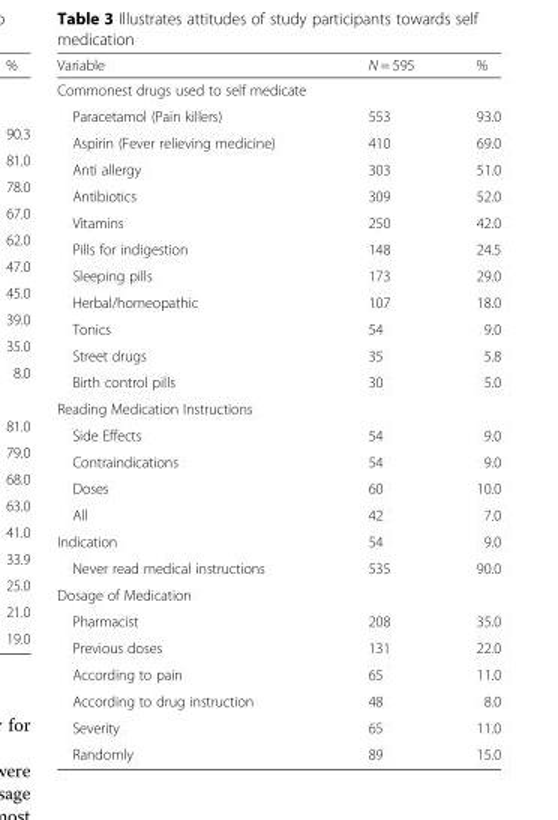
<table><thead><tr><td>Variable</td><td>N = 595</td><td>%</td></tr></thead><tbody><tr><td colspan="3">Commonest drugs used to self medicate</td></tr><tr><td>Paracetamol (Pain killers)</td><td>553</td><td>93.0</td></tr><tr><td>Aspirin (Fever relieving medicine)</td><td>410</td><td>69.0</td></tr><tr><td>Anti allergy</td><td>303</td><td>51.0</td></tr><tr><td>Antibiotics</td><td>309</td><td>52.0</td></tr><tr><td>Vitamins</td><td>250</td><td>42.0</td></tr><tr><td>Pills for indigestion</td><td>148</td><td>24.5</td></tr><tr><td>Sleeping pills</td><td>173</td><td>29.0</td></tr><tr><td>Herbal/homeopathic</td><td>107</td><td>18.0</td></tr><tr><td>Tonics</td><td>54</td><td>9.0</td></tr><tr><td>Street drugs</td><td>35</td><td>5.8</td></tr><tr><td>Birth control pills</td><td>30</td><td>5.0</td></tr><tr><td colspan="3">Reading Medication Instructions</td></tr><tr><td>Side Effects</td><td>54</td><td>9.0</td></tr><tr><td>Contraindications</td><td>54</td><td>9.0</td></tr><tr><td>Doses</td><td>60</td><td>10.0</td></tr><tr><td>All</td><td>42</td><td>7.0</td></tr><tr><td>Indication</td><td>54</td><td>9.0</td></tr><tr><td>Never read medical instructions</td><td>535</td><td>90.0</td></tr><tr><td colspan="3">Dosage of Medication</td></tr><tr><td>Pharmacist</td><td>208</td><td>35.0</td></tr><tr><td>Previous doses</td><td>131</td><td>22.0</td></tr><tr><td>According to pain</td><td>65</td><td>11.0</td></tr><tr><td>According to drug instruction</td><td>48</td><td>8.0</td></tr><tr><td>Severity</td><td>65</td><td>11.0</td></tr><tr><td>Randomly</td><td>89</td><td>15.0</td></tr></tbody></table>